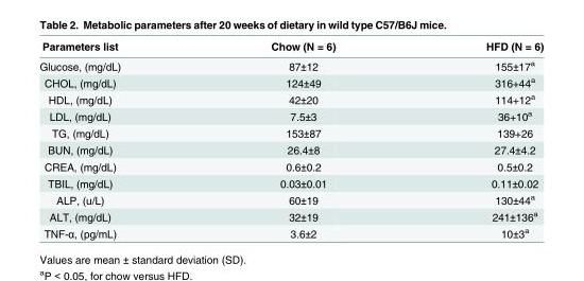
<table><thead><tr><td>Parameters list</td><td>Chow (N = 6)</td><td>HFD (N = 6)</td></tr></thead><tbody><tr><td>Glucose, (mg/dL)</td><td>87±12</td><td>155±17<sup>a</sup></td></tr><tr><td>CHOL, (mg/dL)</td><td>124±49</td><td>316+44<sup>a</sup></td></tr><tr><td>HDL, (mg/dL)</td><td>42±20</td><td>114+12<sup>a</sup></td></tr><tr><td>LDL, (mg/dL)</td><td>7.5±3</td><td>36+10<sup>a</sup></td></tr><tr><td>TG, (mg/dL)</td><td>153±87</td><td>139+26</td></tr><tr><td>BUN, (mg/dL)</td><td>26.4±8</td><td>27.4±4.2</td></tr><tr><td>CREA, (mg/dL)</td><td>0.6±0.2</td><td>0.5±0.2</td></tr><tr><td>TBIL, (mg/dL)</td><td>0.03±0.01</td><td>0.11±0.02</td></tr><tr><td>ALP, (u/L)</td><td>60±19</td><td>130±44<sup>a</sup></td></tr><tr><td>ALT, (mg/dL)</td><td>32±19</td><td>241±136<sup>a</sup></td></tr><tr><td>TNF-α, (pg/mL)</td><td>3.6±2</td><td>10±3<sup>a</sup></td></tr></tbody></table>